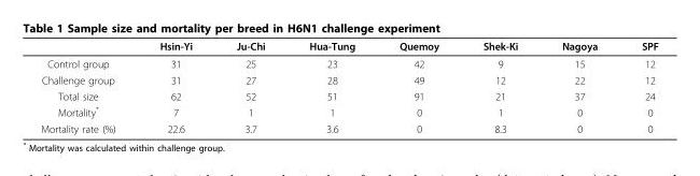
<table><thead><tr><td></td><td>Hsin-Yi</td><td>Ju-Chi</td><td>Hua-Tung</td><td>Quemoy</td><td>Shek-Ki</td><td>Nagoya</td><td>SPF</td></tr></thead><tbody><tr><td>Control group</td><td>31</td><td>25</td><td>23</td><td>42</td><td>9</td><td>15</td><td>12</td></tr><tr><td>Challenge group</td><td>31</td><td>27</td><td>28</td><td>49</td><td>12</td><td>22</td><td>12</td></tr><tr><td>Total size</td><td>62</td><td>52</td><td>51</td><td>91</td><td>21</td><td>37</td><td>24</td></tr><tr><td>Mortality*</td><td>7</td><td>1</td><td>1</td><td>0</td><td>1</td><td>0</td><td>0</td></tr><tr><td>Mortality rate (%)</td><td>22.6</td><td>3.7</td><td>3.6</td><td>0</td><td>8.3</td><td>0</td><td>0</td></tr></tbody></table>